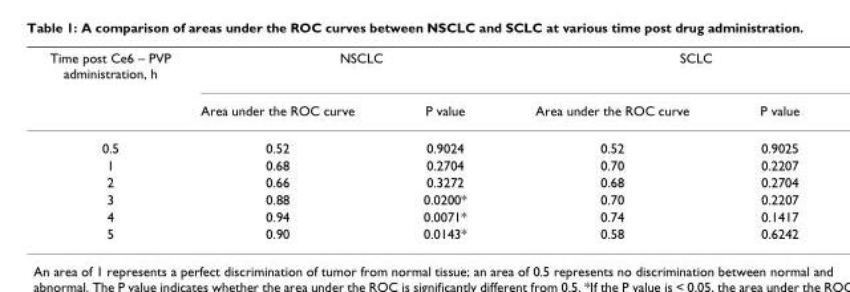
<table><thead><tr><td rowspan="2">Time post Ce6 – PVP administration, h</td><td colspan="2">NSCLC</td><td colspan="2">SCLC</td></tr><tr><td>Area under the ROC curve</td><td>P value</td><td>Area under the ROC curve</td><td>P value</td></tr></thead><tbody><tr><td>0.5</td><td>0.52</td><td>0.9024</td><td>0.52</td><td>0.9025</td></tr><tr><td>1</td><td>0.68</td><td>0.2704</td><td>0.70</td><td>0.2207</td></tr><tr><td>2</td><td>0.66</td><td>0.3272</td><td>0.68</td><td>0.2704</td></tr><tr><td>3</td><td>0.88</td><td>0.0200*</td><td>0.70</td><td>0.2207</td></tr><tr><td>4</td><td>0.94</td><td>0.0071*</td><td>0.74</td><td>0.1417</td></tr><tr><td>5</td><td>0.90</td><td>0.0143*</td><td>0.58</td><td>0.6242</td></tr></tbody></table>